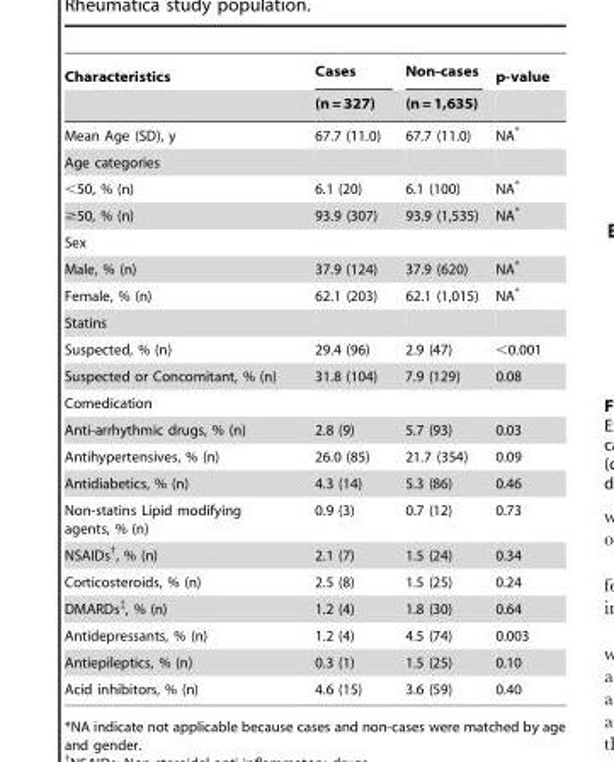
<table><thead><tr><td rowspan="2">Characteristics</td><td rowspan="2">Cases (n = 327)</td><td rowspan="2">Non-cases (n = 1,635)</td><td rowspan="2">p-value</td></tr><tr></tr></thead><tbody><tr><td>Mean Age (SD), y</td><td>67.7 (11.0)</td><td>67.7 (11.0)</td><td>NA*</td></tr><tr><td colspan="4">Age categories</td></tr><tr><td>&lt;50, % (n)</td><td>6.1 (20)</td><td>6.1 (100)</td><td>NA*</td></tr><tr><td>≥50, % (n)</td><td>93.9 (307)</td><td>93.9 (1,535)</td><td>NA*</td></tr><tr><td colspan="4">Sex</td></tr><tr><td>Male, % (n)</td><td>37.9 (124)</td><td>37.9 (620)</td><td>NA*</td></tr><tr><td>Female, % (n)</td><td>62.1 (203)</td><td>62.1 (1,015)</td><td>NA*</td></tr><tr><td colspan="4">Statins</td></tr><tr><td>Suspected, % (n)</td><td>29.4 (96)</td><td>2.9 (47)</td><td>&lt;0.001</td></tr><tr><td>Suspected or Concomitant, % (n)</td><td>31.8 (104)</td><td>7.9 (129)</td><td>0.08</td></tr><tr><td colspan="4">Comedication</td></tr><tr><td>Anti-arrhythmic drugs, % (n)</td><td>2.8 (9)</td><td>5.7 (93)</td><td>0.03</td></tr><tr><td>Antihypertensives, % (n)</td><td>26.0 (85)</td><td>21.7 (354)</td><td>0.09</td></tr><tr><td>Antidiabetics, % (n)</td><td>4.3 (14)</td><td>5.3 (86)</td><td>0.46</td></tr><tr><td>Non-statins Lipid modifying agents, % (n)</td><td>0.9 (3)</td><td>0.7 (12)</td><td>0.73</td></tr><tr><td>NSAIDs†, % (n)</td><td>2.1 (7)</td><td>1.5 (24)</td><td>0.34</td></tr><tr><td>Corticosteroids, % (n)</td><td>2.5 (8)</td><td>1.5 (25)</td><td>0.24</td></tr><tr><td>DMARDs‡, % (n)</td><td>1.2 (4)</td><td>1.8 (30)</td><td>0.64</td></tr><tr><td>Antidepressants, % (n)</td><td>1.2 (4)</td><td>4.5 (74)</td><td>0.003</td></tr><tr><td>Antiepileptics, % (n)</td><td>0.3 (1)</td><td>1.5 (25)</td><td>0.10</td></tr><tr><td>Acid inhibitors, % (n)</td><td>4.6 (15)</td><td>3.6 (59)</td><td>0.40</td></tr></tbody></table>